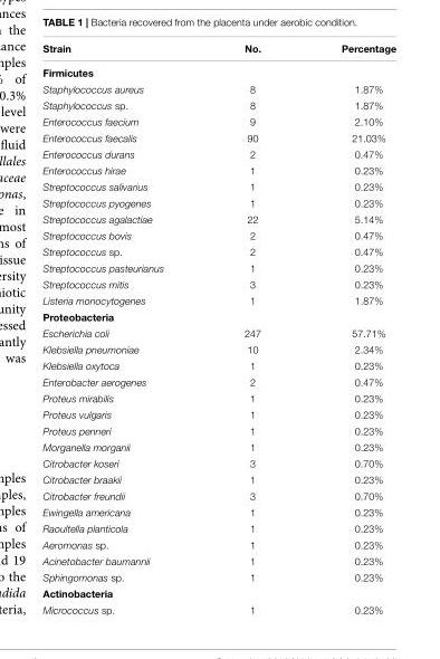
<table><thead><tr><td>Strain</td><td>No.</td><td>Percentage</td></tr></thead><tbody><tr><td colspan="3">Firmicutes</td></tr><tr><td>Staphylococcus aureus</td><td>8</td><td>1.87%</td></tr><tr><td>Staphylococcus sp.</td><td>8</td><td>1.87%</td></tr><tr><td>Enterococcus faecium</td><td>9</td><td>2.10%</td></tr><tr><td>Enterococcus faecalis</td><td>90</td><td>21.03%</td></tr><tr><td>Enterococcus durans</td><td>2</td><td>0.47%</td></tr><tr><td>Enterococcus hirae</td><td>1</td><td>0.23%</td></tr><tr><td>Streptococcus salivarius</td><td>1</td><td>0.23%</td></tr><tr><td>Streptococcus pyogenes</td><td>1</td><td>0.23%</td></tr><tr><td>Streptococcus agalactiae</td><td>22</td><td>5.14%</td></tr><tr><td>Streptococcus bovis</td><td>2</td><td>0.47%</td></tr><tr><td>Streptococcus sp.</td><td>2</td><td>0.47%</td></tr><tr><td>Streptococcus pasteurianus</td><td>1</td><td>0.23%</td></tr><tr><td>Streptococcus mitis</td><td>3</td><td>0.23%</td></tr><tr><td>Listeria monocytogenes</td><td>1</td><td>1.87%</td></tr><tr><td colspan="3">Proteobacteria</td></tr><tr><td>Escherichia coli</td><td>247</td><td>57.71%</td></tr><tr><td>Klebsiella pneumoniae</td><td>10</td><td>2.34%</td></tr><tr><td>Klebsiella oxytoca</td><td>1</td><td>0.23%</td></tr><tr><td>Enterobacter aerogenes</td><td>2</td><td>0.47%</td></tr><tr><td>Proteus mirabilis</td><td>1</td><td>0.23%</td></tr><tr><td>Proteus vulgaris</td><td>1</td><td>0.23%</td></tr><tr><td>Proteus penneri</td><td>1</td><td>0.23%</td></tr><tr><td>Morganella morganii</td><td>1</td><td>0.23%</td></tr><tr><td>Citrobacter koseri</td><td>3</td><td>0.70%</td></tr><tr><td>Citrobacter braakii</td><td>1</td><td>0.23%</td></tr><tr><td>Citrobacter freundii</td><td>3</td><td>0.70%</td></tr><tr><td>Ewingella americana</td><td>1</td><td>0.23%</td></tr><tr><td>Raoultella planticola</td><td>1</td><td>0.23%</td></tr><tr><td>Aeromonas sp.</td><td>1</td><td>0.23%</td></tr><tr><td>Acinetobacter baumannii</td><td>1</td><td>0.23%</td></tr><tr><td>Sphingomonas sp.</td><td>1</td><td>0.23%</td></tr><tr><td colspan="3">Actinobacteria</td></tr><tr><td>Micrococcus sp.</td><td>1</td><td>0.23%</td></tr></tbody></table>